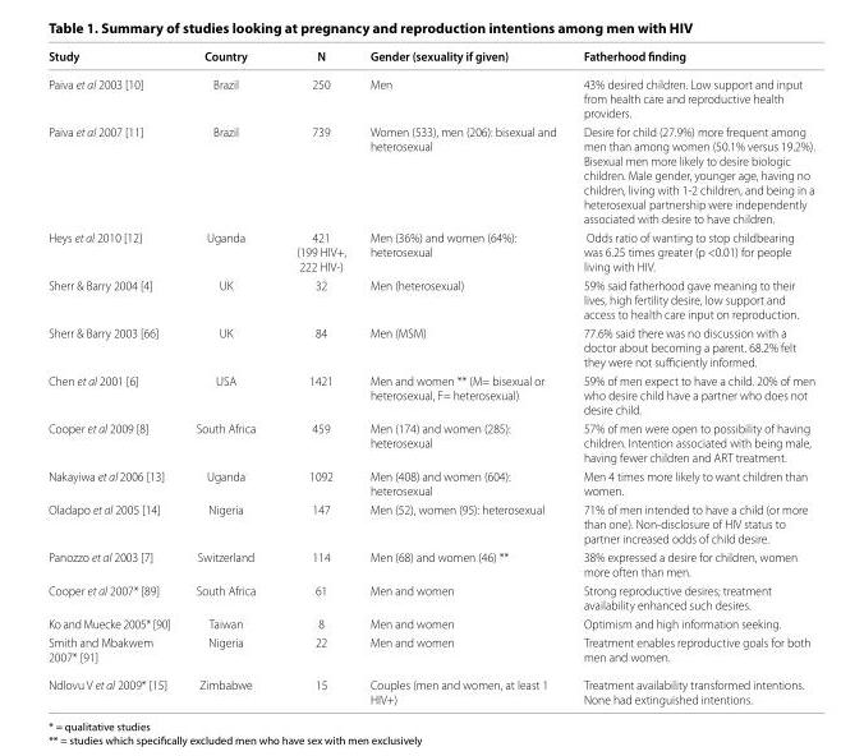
<table><thead><tr><td>Study</td><td>Country</td><td>N</td><td>Gender (sexuality if given)</td><td>Fatherhood fi nding</td></tr></thead><tbody><tr><td>Paiva et al 2003 [10]</td><td>Brazil</td><td>250</td><td>Men</td><td>43% desired children. Low support and input from health care and reproductive health providers.</td></tr><tr><td>Paiva et al 2007 [11]</td><td>Brazil</td><td>739</td><td>Women (533), men (206): bisexual and heterosexual</td><td>Desire for child (27.9%) more frequent among men than among women (50.1% versus 19.2%). Bisexual men more likely to desire biologic children. Male gender, younger age, having no children, living with 1-2 children, and being in a heterosexual partnership were independently associated with desire to have children.</td></tr><tr><td>Heys et al 2010 [12]</td><td>Uganda</td><td>421 (199 HIV+, 222 HIV-)</td><td>Men (36%) and women (64%): heterosexual</td><td>Odds ratio of wanting to stop childbearing was 6.25 times greater (p &lt;0.01) for people living with HIV.</td></tr><tr><td>Sherr &amp; Barry 2004 [4]</td><td>UK</td><td>32</td><td>Men (heterosexual)</td><td>59% said fatherhood gave meaning to their lives, high fertility desire, low support and access to health care input on reproduction.</td></tr><tr><td>Sherr &amp; Barry 2003 [66]</td><td>UK</td><td>84</td><td>Men (MSM)</td><td>77.6% said there was no discussion with a doctor about becoming a parent. 68.2% felt they were not suffi ciently informed.</td></tr><tr><td>Chen et al 2001 [6]</td><td>USA</td><td>1421</td><td>Men and women ** (M= bisexual or heterosexual, F= heterosexual)</td><td>59% of men expect to have a child. 20% of men who desire child have a partner who does not desire child.</td></tr><tr><td>Cooper et al 2009 [8]</td><td>South Africa</td><td>459</td><td>Men (174) and women (285): heterosexual</td><td>57% of men were open to possibility of having children. Intention associated with being male, having fewer children and ART treatment.</td></tr><tr><td>Nakayiwa et al 2006 [13]</td><td>Uganda</td><td>1092</td><td>Men (408) and women (604): heterosexual</td><td>Men 4 times more likely to want children than women.</td></tr><tr><td>Oladapo et al 2005 [14]</td><td>Nigeria</td><td>147</td><td>Men (52), women (95): heterosexual</td><td>71% of men intended to have a child (or more than one). Non-disclosure of HIV status to partner increased odds of child desire.</td></tr><tr><td>Panozzo et al 2003 [7]</td><td>Switzerland</td><td>114</td><td>Men (68) and women (46) **</td><td>38% expressed a desire for children, women more often than men.</td></tr><tr><td>Cooper et al 2007* [89]</td><td>South Africa</td><td>61</td><td>Men and women</td><td>Strong reproductive desires; treatment availability enhanced such desires.</td></tr><tr><td>Ko and Muecke 2005* [90]</td><td>Taiwan</td><td>8</td><td>Men and women</td><td>Optimism and high information seeking.</td></tr><tr><td>Smith and Mbakwem 2007* [91]</td><td>Nigeria</td><td>22</td><td>Men and women</td><td>Treatment enables reproductive goals for both men and women.</td></tr><tr><td>Ndlovu V et al 2009* [15]</td><td>Zimbabwe</td><td>15</td><td>Couples (men and women, at least 1 HIV+)</td><td>Treatment availability transformed intentions. None had extinguished intentions.</td></tr></tbody></table>